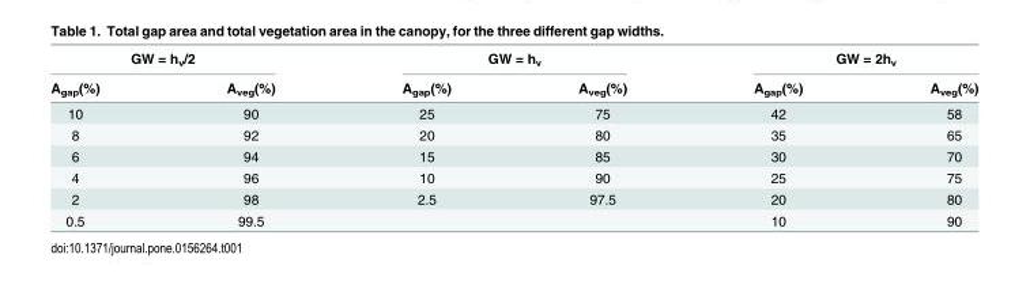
<table><thead><tr><td colspan="2">GW = h<sub>v</sub>/2</td><td colspan="2">GW = h<sub>v</sub></td><td colspan="2">GW = 2h<sub>v</sub></td></tr><tr><td>A<sub>gap</sub>(%)</td><td>A<sub>veg</sub>(%)</td><td>A<sub>gap</sub>(%)</td><td>A<sub>veg</sub>(%)</td><td>A<sub>gap</sub>(%)</td><td>A<sub>veg</sub>(%)</td></tr></thead><tbody><tr><td>10</td><td>90</td><td>25</td><td>75</td><td>42</td><td>58</td></tr><tr><td>8</td><td>92</td><td>20</td><td>80</td><td>35</td><td>65</td></tr><tr><td>6</td><td>94</td><td>15</td><td>85</td><td>30</td><td>70</td></tr><tr><td>4</td><td>96</td><td>10</td><td>90</td><td>25</td><td>75</td></tr><tr><td>2</td><td>98</td><td>2.5</td><td>97.5</td><td>20</td><td>80</td></tr><tr><td>0.5</td><td>99.5</td><td></td><td></td><td>10</td><td>90</td></tr></tbody></table>